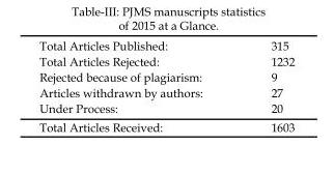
<table><tbody><tr><td>Total Articles Published:</td><td>315</td></tr><tr><td>Total Articles Rejected:</td><td>1232</td></tr><tr><td>Rejected because of plagiarism:</td><td>9</td></tr><tr><td>Articles withdrawn by authors:</td><td>27</td></tr><tr><td>Under Process:</td><td>20</td></tr><tr><td>Total Articles Received:</td><td>1603</td></tr></tbody></table>